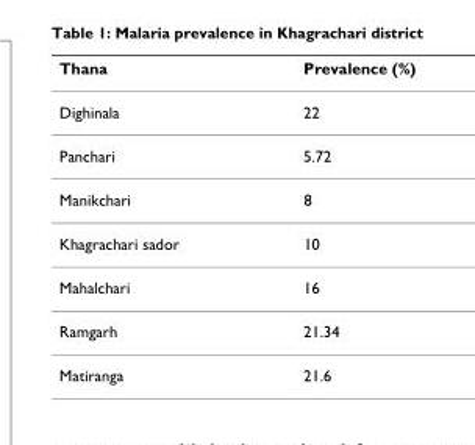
<table><thead><tr><td>Thana</td><td>Prevalence (%)</td></tr></thead><tbody><tr><td>Dighinala</td><td>22</td></tr><tr><td>Panchari</td><td>5.72</td></tr><tr><td>Manikchari</td><td>8</td></tr><tr><td>Khagrachari sador</td><td>10</td></tr><tr><td>Mahalchari</td><td>16</td></tr><tr><td>Ramgarh</td><td>21.34</td></tr><tr><td>Matiranga</td><td>21.6</td></tr></tbody></table>